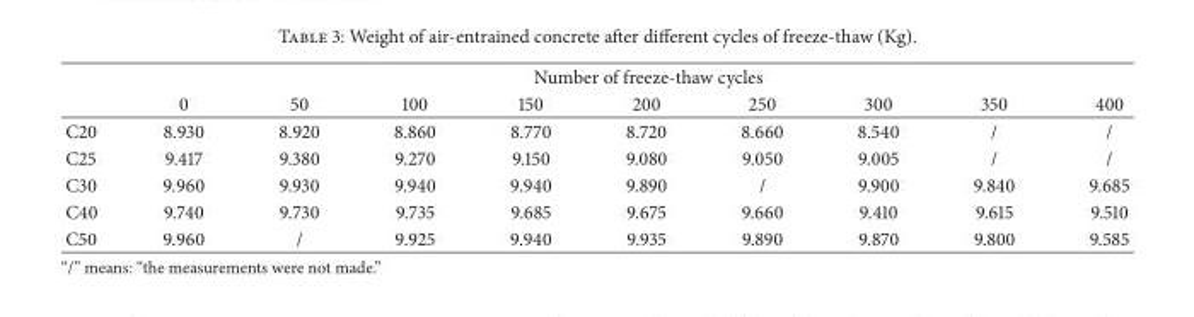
<table><thead><tr><td rowspan="2"></td><td colspan="9">Number of freeze-thaw cycles</td></tr><tr><td>0</td><td>50</td><td>100</td><td>150</td><td>200</td><td>250</td><td>300</td><td>350</td><td>400</td></tr></thead><tbody><tr><td>C20</td><td>8.930</td><td>8.920</td><td>8.860</td><td>8.770</td><td>8.720</td><td>8.660</td><td>8.540</td><td>/</td><td>/</td></tr><tr><td>C25</td><td>9.417</td><td>9.380</td><td>9.270</td><td>9.150</td><td>9.080</td><td>9.050</td><td>9.005</td><td>/</td><td>/</td></tr><tr><td>C30</td><td>9.960</td><td>9.930</td><td>9.940</td><td>9.940</td><td>9.890</td><td>/</td><td>9.900</td><td>9.840</td><td>9.685</td></tr><tr><td>C40</td><td>9.740</td><td>9.730</td><td>9.735</td><td>9.685</td><td>9.675</td><td>9.660</td><td>9.410</td><td>9.615</td><td>9.510</td></tr><tr><td>C50</td><td>9.960</td><td>/</td><td>9.925</td><td>9.940</td><td>9.935</td><td>9.890</td><td>9.870</td><td>9.800</td><td>9.585</td></tr></tbody></table>